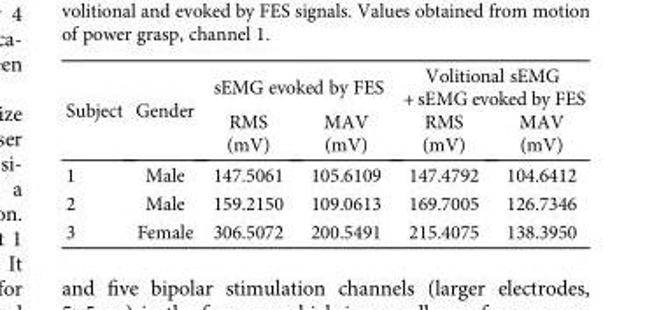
<table><thead><tr><td rowspan="2">Subject</td><td rowspan="2">Gender</td><td colspan="2">sEMG evoked by FES</td><td colspan="2">Volitional sEMG + sEMG evoked by FES</td></tr><tr><td>RMS (mV)</td><td>MAV (mV)</td><td>RMS (mV)</td><td>MAV (mV)</td></tr></thead><tbody><tr><td>1</td><td>Male</td><td>147.5061</td><td>105.6109</td><td>147.4792</td><td>104.6412</td></tr><tr><td>2</td><td>Male</td><td>159.2150</td><td>109.0613</td><td>169.7005</td><td>126.7346</td></tr><tr><td>3</td><td>Female</td><td>306.5072</td><td>200.5491</td><td>215.4075</td><td>138.3950</td></tr></tbody></table>